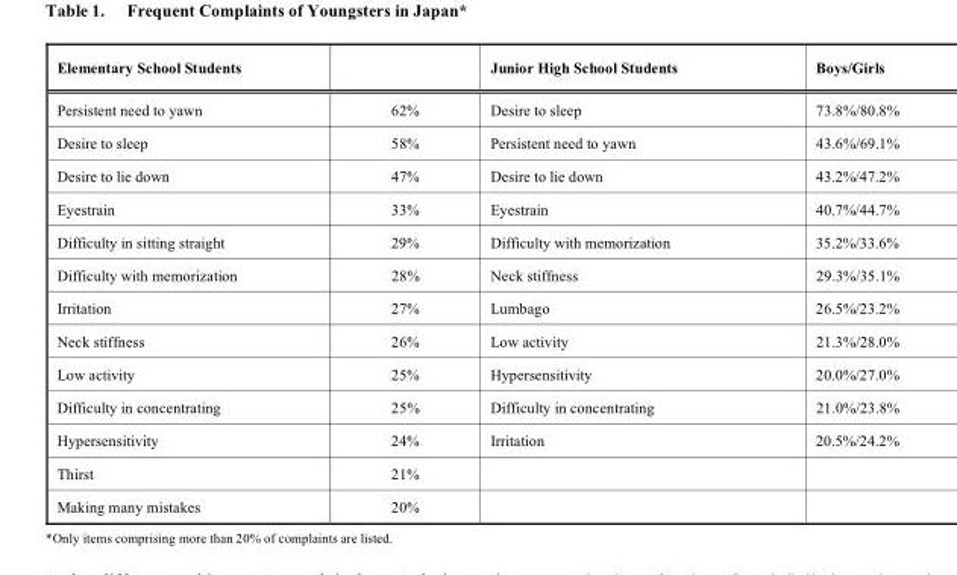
<table><thead><tr><td>Elementary School Students</td><td></td><td>Junior High School Students</td><td>Boys/Girls</td></tr></thead><tbody><tr><td>Persistent need to yawn</td><td>62%</td><td>Desire to sleep</td><td>73.8%/80.8%</td></tr><tr><td>Desire to sleep</td><td>58%</td><td>Persistent need to yawn</td><td>43.6%/69.1%</td></tr><tr><td>Desire to lie down</td><td>47%</td><td>Desire to lie down</td><td>43.2%/47.2%</td></tr><tr><td>Eyestrain</td><td>33%</td><td>Eyestrain</td><td>40.7%/44.7%</td></tr><tr><td>Difficulty in sitting straight</td><td>29%</td><td>Difficulty with memorization</td><td>35.2%/33.6%</td></tr><tr><td>Difficulty with memorization</td><td>28%</td><td>Neck stiffness</td><td>29.3%/35.1%</td></tr><tr><td>Irritation</td><td>27%</td><td>Lumbago</td><td>26.5%/23.2%</td></tr><tr><td>Neck stiffness</td><td>26%</td><td>Low activity</td><td>21.3%/28.0%</td></tr><tr><td>Low activity</td><td>25%</td><td>Hypersensitivity</td><td>20.0%/27.0%</td></tr><tr><td>Difficulty in concentrating</td><td>25%</td><td>Difficulty in concentrating</td><td>21.0%/23.8%</td></tr><tr><td>Hypersensitivity</td><td>24%</td><td>Irritation</td><td>20.5%/24.2%</td></tr><tr><td>Thirst</td><td>21%</td><td></td><td></td></tr><tr><td>Making many mistakes</td><td>20%</td><td></td><td></td></tr></tbody></table>